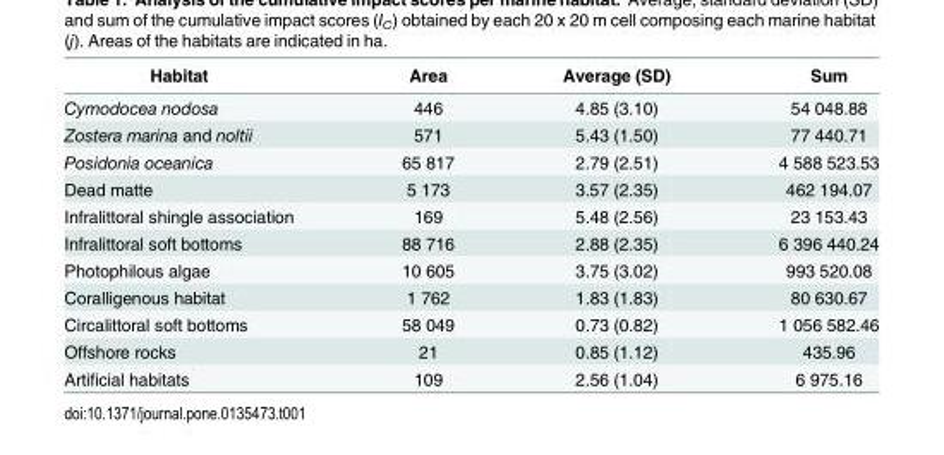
<table><thead><tr><td>Habitat</td><td>Area</td><td>Average (SD)</td><td>Sum</td></tr></thead><tbody><tr><td>Cymodocea nodosa</td><td>446</td><td>4.85 (3.10)</td><td>54 048.88</td></tr><tr><td>Zostera marina and noltii</td><td>571</td><td>5.43 (1.50)</td><td>77 440.71</td></tr><tr><td>Posidonia oceanica</td><td>65 817</td><td>2.79 (2.51)</td><td>4 588 523.53</td></tr><tr><td>Dead matte</td><td>5 173</td><td>3.57 (2.35)</td><td>462 194.07</td></tr><tr><td>Infralittoral shingle association</td><td>169</td><td>5.48 (2.56)</td><td>23 153.43</td></tr><tr><td>Infralittoral soft bottoms</td><td>88 716</td><td>2.88 (2.35)</td><td>6 396 440.24</td></tr><tr><td>Photophilous algae</td><td>10 605</td><td>3.75 (3.02)</td><td>993 520.08</td></tr><tr><td>Coralligenous habitat</td><td>1 762</td><td>1.83 (1.83)</td><td>80 630.67</td></tr><tr><td>Circalittoral soft bottoms</td><td>58 049</td><td>0.73 (0.82)</td><td>1 056 582.46</td></tr><tr><td>Offshore rocks</td><td>21</td><td>0.85 (1.12)</td><td>435.96</td></tr><tr><td>Artificial habitats</td><td>109</td><td>2.56 (1.04)</td><td>6 975.16</td></tr></tbody></table>